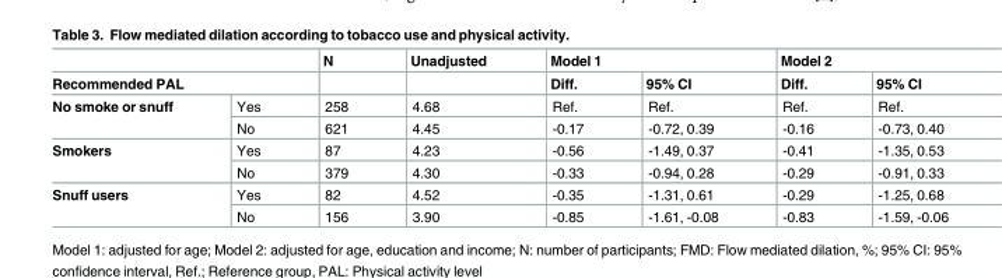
<table><thead><tr><td></td><td></td><td rowspan="2">N</td><td rowspan="2">Unadjusted</td><td colspan="2">Model 1</td><td colspan="2">Model 2</td></tr><tr><td colspan="2">Recommended PAL</td><td>Diff.</td><td>95% CI</td><td>Diff.</td><td>95% CI</td></tr></thead><tbody><tr><td rowspan="2">No smoke or snuff</td><td>Yes</td><td>258</td><td>4.68</td><td>Ref.</td><td>Ref.</td><td>Ref.</td><td>Ref.</td></tr><tr><td>No</td><td>621</td><td>4.45</td><td>-0.17</td><td>-0.72, 0.39</td><td>-0.16</td><td>-0.73, 0.40</td></tr><tr><td rowspan="2">Smokers</td><td>Yes</td><td>87</td><td>4.23</td><td>-0.56</td><td>-1.49, 0.37</td><td>-0.41</td><td>-1.35, 0.53</td></tr><tr><td>No</td><td>379</td><td>4.30</td><td>-0.33</td><td>-0.94, 0.28</td><td>-0.29</td><td>-0.91, 0.33</td></tr><tr><td rowspan="2">Snuff users</td><td>Yes</td><td>82</td><td>4.52</td><td>-0.35</td><td>-1.31, 0.61</td><td>-0.29</td><td>-1.25, 0.68</td></tr><tr><td>No</td><td>156</td><td>3.90</td><td>-0.85</td><td>-1.61, -0.08</td><td>-0.83</td><td>-1.59, -0.06</td></tr></tbody></table>